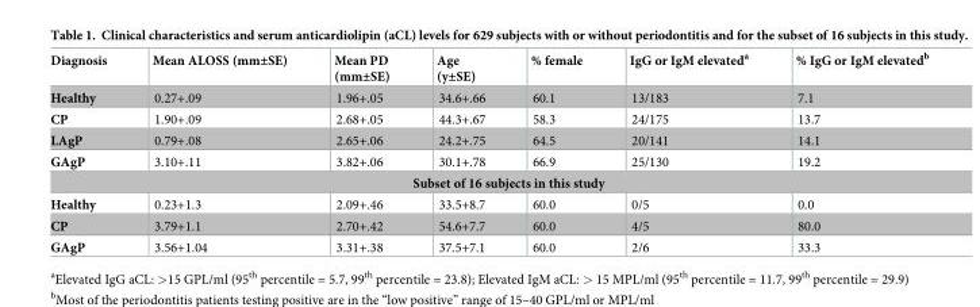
<table><thead><tr><td>Diagnosis</td><td>Mean ALOSS (mm±SE)</td><td>Mean PD (mm±SE)</td><td>Age (y±SE)</td><td>% female</td><td>IgG or IgM elevated<sup>a</sup></td><td>% IgG or IgM elevated<sup>b</sup></td></tr></thead><tbody><tr><td>Healthy</td><td>0.27+.09</td><td>1.96+.05</td><td>34.6+.66</td><td>60.1</td><td>13/183</td><td>7.1</td></tr><tr><td>CP</td><td>1.90+.09</td><td>2.68+.05</td><td>44.3+.67</td><td>58.3</td><td>24/175</td><td>13.7</td></tr><tr><td>LAgP</td><td>0.79+.08</td><td>2.65+.06</td><td>24.2+.75</td><td>64.5</td><td>20/141</td><td>14.1</td></tr><tr><td>GAgP</td><td>3.10+.11</td><td>3.82+.06</td><td>30.1+.78</td><td>66.9</td><td>25/130</td><td>19.2</td></tr><tr><td colspan="7">Subset of 16 subjects in this study</td></tr><tr><td>Healthy</td><td>0.23+1.3</td><td>2.09+.46</td><td>33.5+8.7</td><td>60.0</td><td>0/5</td><td>0.0</td></tr><tr><td>CP</td><td>3.79+1.1</td><td>2.70+.42</td><td>54.6+7.7</td><td>60.0</td><td>4/5</td><td>80.0</td></tr><tr><td>GAgP</td><td>3.56+1.04</td><td>3.31+.38</td><td>37.5+7.1</td><td>60.0</td><td>2/6</td><td>33.3</td></tr></tbody></table>